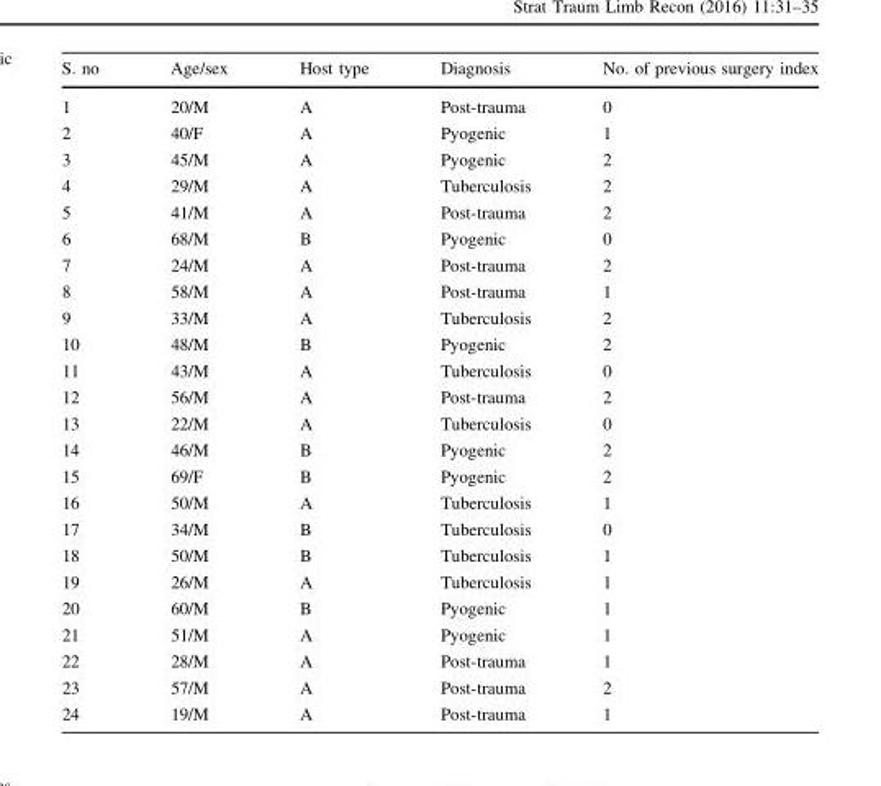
<table><thead><tr><td>S. no</td><td>Age/sex</td><td>Host type</td><td>Diagnosis</td><td>No. of previous surgery index</td></tr></thead><tbody><tr><td>1</td><td>20/M</td><td>A</td><td>Post-trauma</td><td>0</td></tr><tr><td>2</td><td>40/F</td><td>A</td><td>Pyogenic</td><td>1</td></tr><tr><td>3</td><td>45/M</td><td>A</td><td>Pyogenic</td><td>2</td></tr><tr><td>4</td><td>29/M</td><td>A</td><td>Tuberculosis</td><td>2</td></tr><tr><td>5</td><td>41/M</td><td>A</td><td>Post-trauma</td><td>2</td></tr><tr><td>6</td><td>68/M</td><td>B</td><td>Pyogenic</td><td>0</td></tr><tr><td>7</td><td>24/M</td><td>A</td><td>Post-trauma</td><td>2</td></tr><tr><td>8</td><td>58/M</td><td>A</td><td>Post-trauma</td><td>1</td></tr><tr><td>9</td><td>33/M</td><td>A</td><td>Tuberculosis</td><td>2</td></tr><tr><td>10</td><td>48/M</td><td>B</td><td>Pyogenic</td><td>2</td></tr><tr><td>11</td><td>43/M</td><td>A</td><td>Tuberculosis</td><td>0</td></tr><tr><td>12</td><td>56/M</td><td>A</td><td>Post-trauma</td><td>2</td></tr><tr><td>13</td><td>22/M</td><td>A</td><td>Tuberculosis</td><td>0</td></tr><tr><td>14</td><td>46/M</td><td>B</td><td>Pyogenic</td><td>2</td></tr><tr><td>15</td><td>69/F</td><td>B</td><td>Pyogenic</td><td>2</td></tr><tr><td>16</td><td>50/M</td><td>A</td><td>Tuberculosis</td><td>1</td></tr><tr><td>17</td><td>34/M</td><td>B</td><td>Tuberculosis</td><td>0</td></tr><tr><td>18</td><td>50/M</td><td>B</td><td>Tuberculosis</td><td>1</td></tr><tr><td>19</td><td>26/M</td><td>A</td><td>Tuberculosis</td><td>1</td></tr><tr><td>20</td><td>60/M</td><td>B</td><td>Pyogenic</td><td>1</td></tr><tr><td>21</td><td>51/M</td><td>A</td><td>Pyogenic</td><td>1</td></tr><tr><td>22</td><td>28/M</td><td>A</td><td>Post-trauma</td><td>1</td></tr><tr><td>23</td><td>57/M</td><td>A</td><td>Post-trauma</td><td>2</td></tr><tr><td>24</td><td>19/M</td><td>A</td><td>Post-trauma</td><td>1</td></tr></tbody></table>